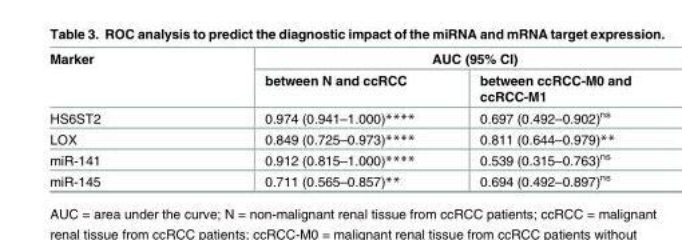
<table><thead><tr><td rowspan="2">Marker</td><td colspan="2">AUC (95% CI)</td></tr><tr><td>between N and ccRCC</td><td>between ccRCC-M0 and ccRCC-M1</td></tr></thead><tbody><tr><td>HS6ST2</td><td>0.974 (0.941–1.000)****</td><td>0.697 (0.492–0.902)<sup>ns</sup></td></tr><tr><td>LOX</td><td>0.849 (0.725–0.973)****</td><td>0.811 (0.644–0.979)**</td></tr><tr><td>miR-141</td><td>0.912 (0.815–1.000)****</td><td>0.539 (0.315–0.763)<sup>ns</sup></td></tr><tr><td>miR-145</td><td>0.711 (0.565–0.857)**</td><td>0.694 (0.492–0.897)<sup>ns</sup></td></tr></tbody></table>